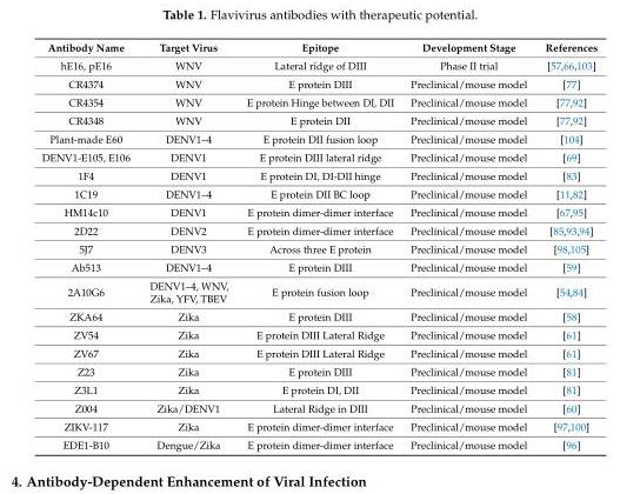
<table><thead><tr><td>Antibody Name</td><td>Target Virus</td><td>Epitope</td><td>Development Stage</td><td>References</td></tr></thead><tbody><tr><td>hE16, pE16</td><td>WNV</td><td>Lateral ridge of DIII</td><td>Phase II trial</td><td>[57,66,103]</td></tr><tr><td>CR4374</td><td>WNV</td><td>E protein DIII</td><td>Preclinical/mouse model</td><td>[77]</td></tr><tr><td>CR4354</td><td>WNV</td><td>E protein Hinge between DI, DII</td><td>Preclinical/mouse model</td><td>[77,92]</td></tr><tr><td>CR4348</td><td>WNV</td><td>E protein DII</td><td>Preclinical/mouse model</td><td>[77,92]</td></tr><tr><td>Plant-made E60</td><td>DENV1–4</td><td>E protein DII fusion loop</td><td>Preclinical/mouse model</td><td>[104]</td></tr><tr><td>DENV1-E105, E106</td><td>DENV1</td><td>E protein DIII lateral ridge</td><td>Preclinical/mouse model</td><td>[69]</td></tr><tr><td>1F4</td><td>DENV1</td><td>E protein DI, DI-DII hinge</td><td>Preclinical/mouse model</td><td>[83]</td></tr><tr><td>1C19</td><td>DENV1–4</td><td>E protein DII BC loop</td><td>Preclinical/mouse model</td><td>[11,82]</td></tr><tr><td>HM14c10</td><td>DENV1</td><td>E protein dimer-dimer interface</td><td>Preclinical/mouse model</td><td>[67,95]</td></tr><tr><td>2D22</td><td>DENV2</td><td>E protein dimer-dimer interface</td><td>Preclinical/mouse model</td><td>[85,93,94]</td></tr><tr><td>5J7</td><td>DENV3</td><td>Across three E protein</td><td>Preclinical/mouse model</td><td>[98,105]</td></tr><tr><td>Ab513</td><td>DENV1–4</td><td>E protein DIII</td><td>Preclinical/mouse model</td><td>[59]</td></tr><tr><td>2A10G6</td><td>DENV1–4, WNV, Zika, YFV, TBEV</td><td>E protein fusion loop</td><td>Preclinical/mouse model</td><td>[54,84]</td></tr><tr><td>ZKA64</td><td>Zika</td><td>E protein DIII</td><td>Preclinical/mouse model</td><td>[58]</td></tr><tr><td>ZV54</td><td>Zika</td><td>E protein DIII Lateral Ridge</td><td>Preclinical/mouse model</td><td>[61]</td></tr><tr><td>ZV67</td><td>Zika</td><td>E protein DIII Lateral Ridge</td><td>Preclinical/mouse model</td><td>[61]</td></tr><tr><td>Z23</td><td>Zika</td><td>E protein DIII</td><td>Preclinical/mouse model</td><td>[81]</td></tr><tr><td>Z3L1</td><td>Zika</td><td>E protein DI, DII</td><td>Preclinical/mouse model</td><td>[81]</td></tr><tr><td>Z004</td><td>Zika/DENV1</td><td>Lateral Ridge in DIII</td><td>Preclinical/mouse model</td><td>[60]</td></tr><tr><td>ZIKV-117</td><td>Zika</td><td>E protein dimer-dimer interface</td><td>Preclinical/mouse model</td><td>[97,100]</td></tr><tr><td>EDE1-B10</td><td>Dengue/Zika</td><td>E protein dimer-dimer interface</td><td>Preclinical/mouse model</td><td>[96]</td></tr></tbody></table>